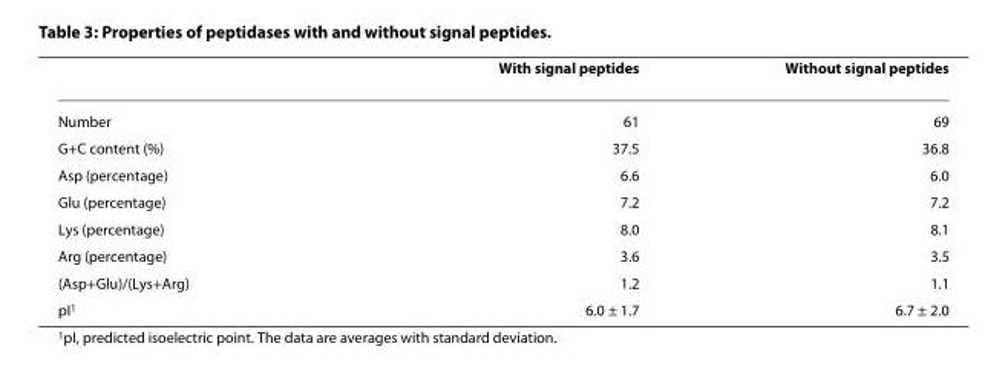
<table><thead><tr><td></td><td>With signal peptides</td><td>Without signal peptides</td></tr></thead><tbody><tr><td>Number</td><td>61</td><td>69</td></tr><tr><td>G+C content (%)</td><td>37.5</td><td>36.8</td></tr><tr><td>Asp (percentage)</td><td>6.6</td><td>6.0</td></tr><tr><td>Glu (percentage)</td><td>7.2</td><td>7.2</td></tr><tr><td>Lys (percentage)</td><td>8.0</td><td>8.1</td></tr><tr><td>Arg (percentage)</td><td>3.6</td><td>3.5</td></tr><tr><td>(Asp+Glu)/(Lys+Arg)</td><td>1.2</td><td>1.1</td></tr><tr><td>pI<sup>1</sup></td><td>6.0 ± 1.7</td><td>6.7 ± 2.0</td></tr></tbody></table>